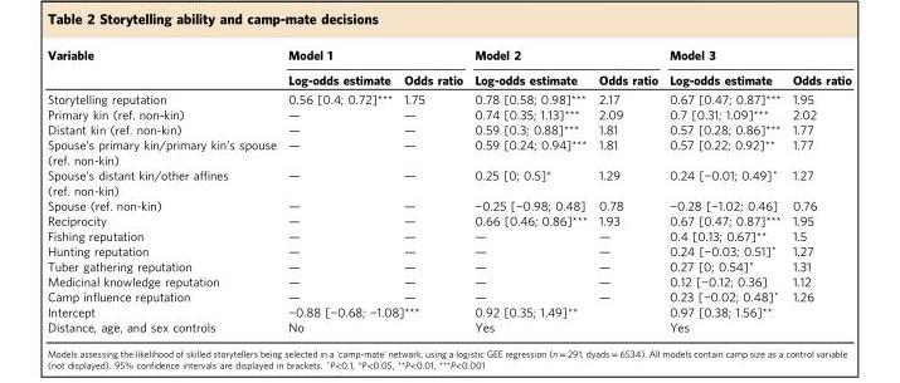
<table><thead><tr><td rowspan="2">Variable</td><td colspan="2">Model 1</td><td colspan="2">Model 2</td><td colspan="2">Model 3</td></tr><tr><td>Log-odds estimate</td><td>Odds ratio</td><td>Log-odds estimate</td><td>Odds ratio</td><td>Log-odds estimate</td><td>Odds ratio</td></tr></thead><tbody><tr><td>Storytelling reputation</td><td>0.56 [0.4; 0.72]***</td><td>1.75</td><td>0.78 [0.58; 0.98]***</td><td>2.17</td><td>0.67 [0.47; 0.87]***</td><td>1.95</td></tr><tr><td>Primary kin (ref. non-kin)</td><td>—</td><td>—</td><td>0.74 [0.35; 1.13]***</td><td>2.09</td><td>0.7 [0.31; 1.09]***</td><td>2.02</td></tr><tr><td>Distant kin (ref. non-kin)</td><td>—</td><td>—</td><td>0.59 [0.3; 0.88]***</td><td>1.81</td><td>0.57 [0.28; 0.86]***</td><td>1.77</td></tr><tr><td>Spouse’s primary kin/primary kin’s spouse (ref. non-kin)</td><td>—</td><td>—</td><td>0.59 [0.24; 0.94]***</td><td>1.81</td><td>0.57 [0.22; 0.92]**</td><td>1.77</td></tr><tr><td>Spouse’s distant kin/other affines (ref. non-kin)</td><td>—</td><td>—</td><td>0.25 [0; 0.5]*</td><td>1.29</td><td>0.24 [−0.01; 0.49]˙</td><td>1.27</td></tr><tr><td>Spouse (ref. non-kin)</td><td>—</td><td>—</td><td>−0.25 [−0.98; 0.48]</td><td>0.78</td><td>−0.28 [−1.02; 0.46]</td><td>0.76</td></tr><tr><td>Reciprocity</td><td>—</td><td>—</td><td>0.66 [0.46; 0.86]***</td><td>1.93</td><td>0.67 [0.47; 0.87]***</td><td>1.95</td></tr><tr><td>Fishing reputation</td><td>—</td><td>—</td><td>—</td><td>—</td><td>0.4 [0.13; 0.67]**</td><td>1.5</td></tr><tr><td>Hunting reputation</td><td>—</td><td>—</td><td>—</td><td>—</td><td>0.24 [−0.03; 0.51]˙</td><td>1.27</td></tr><tr><td>Tuber gathering reputation</td><td>—</td><td>—</td><td>—</td><td>—</td><td>0.27 [0; 0.54]˙</td><td>1.31</td></tr><tr><td>Medicinal knowledge reputation</td><td>—</td><td>—</td><td>—</td><td>—</td><td>0.12 [−0.12; 0.36]</td><td>1.12</td></tr><tr><td>Camp influence reputation</td><td>—</td><td>—</td><td>—</td><td>—</td><td>0.23 [−0.02; 0.48]˙</td><td>1.26</td></tr><tr><td>Intercept</td><td colspan="2">−0.88 [−0.68; −1.08]***</td><td colspan="2">0.92 [0.35; 1.49]**</td><td colspan="2">0.97 [0.38; 1.56]**</td></tr><tr><td>Distance, age, and sex controls</td><td colspan="2">No</td><td colspan="2">Yes</td><td colspan="2">Yes</td></tr></tbody></table>